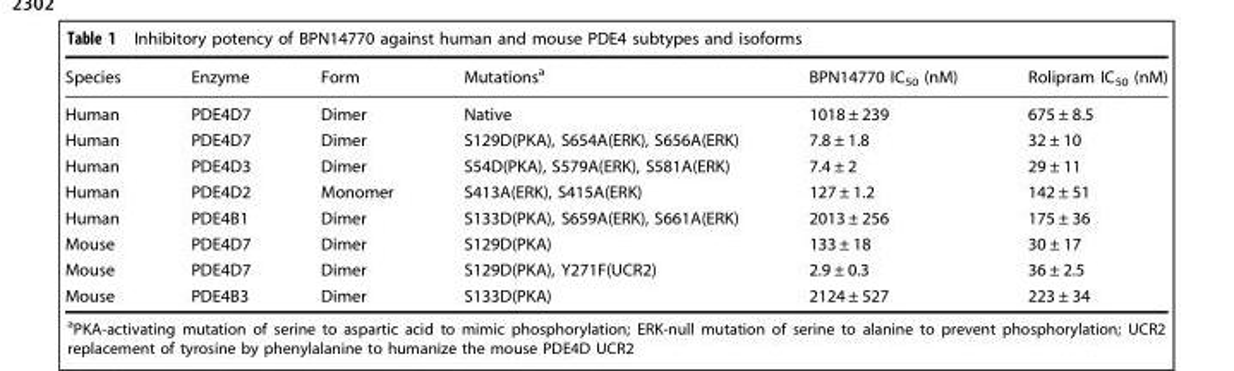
<table><thead><tr><td>Species</td><td>Enzyme</td><td>Form</td><td>Mutations<sup>a</sup></td><td>BPN14770 IC<sub>50</sub> (nM)</td><td>Rolipram IC<sub>50</sub> (nM)</td></tr></thead><tbody><tr><td>Human</td><td>PDE4D7</td><td>Dimer</td><td>Native</td><td>1018 ± 239</td><td>675 ± 8.5</td></tr><tr><td>Human</td><td>PDE4D7</td><td>Dimer</td><td>S129D(PKA), S654A(ERK), S656A(ERK)</td><td>7.8 ± 1.8</td><td>32 ± 10</td></tr><tr><td>Human</td><td>PDE4D3</td><td>Dimer</td><td>S54D(PKA), S579A(ERK), S581A(ERK)</td><td>7.4 ± 2</td><td>29 ± 11</td></tr><tr><td>Human</td><td>PDE4D2</td><td>Monomer</td><td>S413A(ERK), S415A(ERK)</td><td>127 ± 1.2</td><td>142 ± 51</td></tr><tr><td>Human</td><td>PDE4B1</td><td>Dimer</td><td>S133D(PKA), S659A(ERK), S661A(ERK)</td><td>2013 ± 256</td><td>175 ± 36</td></tr><tr><td>Mouse</td><td>PDE4D7</td><td>Dimer</td><td>S129D(PKA)</td><td>133 ± 18</td><td>30 ± 17</td></tr><tr><td>Mouse</td><td>PDE4D7</td><td>Dimer</td><td>S129D(PKA), Y271F(UCR2)</td><td>2.9 ± 0.3</td><td>36 ± 2.5</td></tr><tr><td>Mouse</td><td>PDE4B3</td><td>Dimer</td><td>S133D(PKA)</td><td>2124 ± 527</td><td>223 ± 34</td></tr></tbody></table>